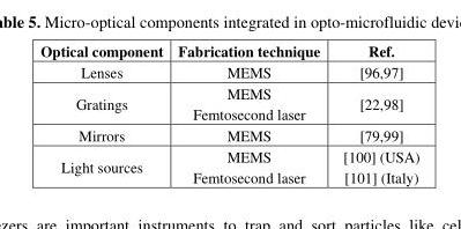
<table><thead><tr><td>Optical component</td><td>Fabrication technique</td><td>Ref.</td></tr></thead><tbody><tr><td>Lenses</td><td>MEMS</td><td>[96,97]</td></tr><tr><td>Gratings</td><td>MEMS Femtosecond laser</td><td>[22,98]</td></tr><tr><td>Mirrors</td><td>MEMS</td><td>[79,99]</td></tr><tr><td>Light sources</td><td>MEMS Femtosecond laser</td><td>[100] (USA) [101] (Italy)</td></tr></tbody></table>